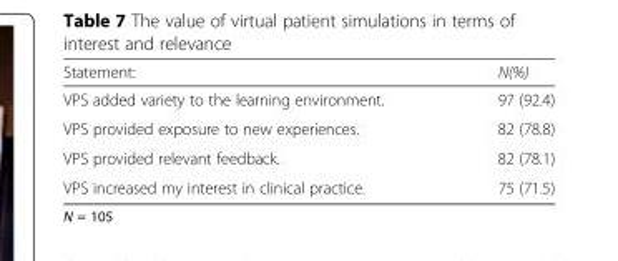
<table><thead><tr><td>Statement:</td><td>N(%)</td></tr></thead><tbody><tr><td>VPS added variety to the learning environment.</td><td>97 (92.4)</td></tr><tr><td>VPS provided exposure to new experiences.</td><td>82 (78.8)</td></tr><tr><td>VPS provided relevant feedback.</td><td>82 (78.1)</td></tr><tr><td>VPS increased my interest in clinical practice.</td><td>75 (71.5)</td></tr></tbody></table>